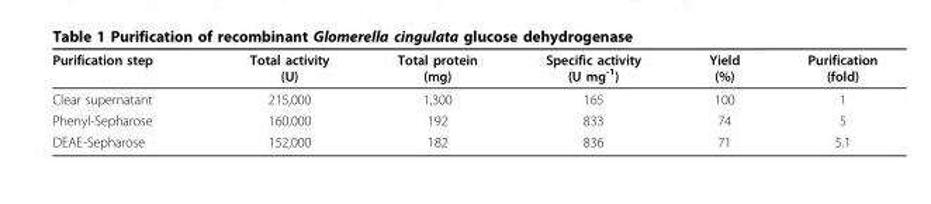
<table><thead><tr><td>Purification step</td><td>Total activity (U)</td><td>Total protein (mg)</td><td>Specific activity (U mg<sup>-1</sup>)</td><td>Yield (%)</td><td>Purification (fold)</td></tr></thead><tbody><tr><td>Clear supernatant</td><td>215,000</td><td>1,300</td><td>165</td><td>100</td><td>1</td></tr><tr><td>Phenyl-Sepharose</td><td>160,000</td><td>192</td><td>833</td><td>74</td><td>5</td></tr><tr><td>DEAE-Sepharose</td><td>152,000</td><td>182</td><td>836</td><td>71</td><td>5.1</td></tr></tbody></table>